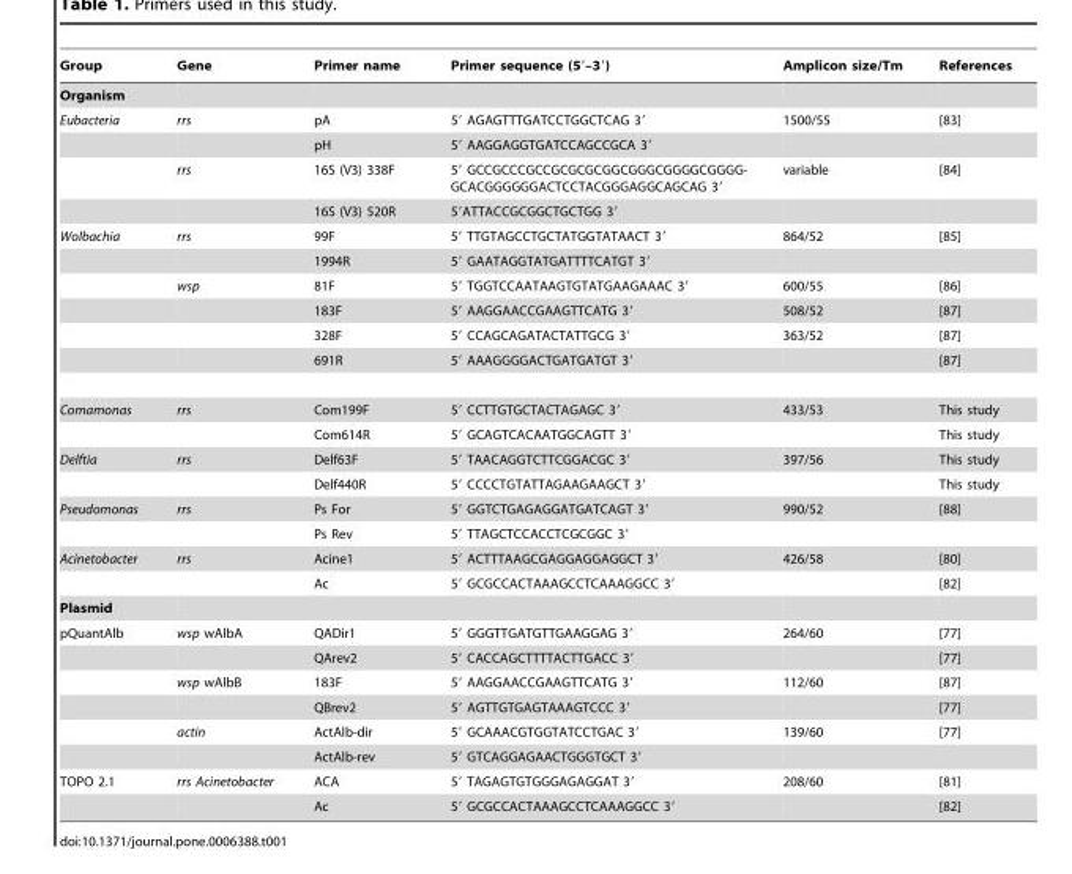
<table><thead><tr><td>Group</td><td>Gene</td><td>Primer name</td><td>Primer sequence (5′–3′)</td><td>Amplicon size/Tm</td><td>References</td></tr></thead><tbody><tr><td colspan="6">Organism</td></tr><tr><td rowspan="4">Eubacteria</td><td>rrs</td><td>pA</td><td>5′ AGAGTTTGATCCTGGCTCAG 3′</td><td>1500/55</td><td>[83]</td></tr><tr><td></td><td>pH</td><td>5′ AAGGAGGTGATCCAGCCGCA 3′</td><td></td><td></td></tr><tr><td>rrs</td><td>16S (V3) 338F</td><td>59 GCCGCCCGCCGCGCGCGGCGGGCGGGGCGGGG- GCACGGGGGGACTCCTACGGGAGGCAGCAG 39</td><td>variable</td><td>[84]</td></tr><tr><td></td><td>16S (V3) 520R</td><td>5′ATTACCGCGGCTGCTGG 3′</td><td></td><td></td></tr><tr><td rowspan="6">Wolbachia</td><td>rrs</td><td>99F</td><td>5′ TTGTAGCCTGCTATGGTATAACT 3′</td><td>864/52</td><td>[85]</td></tr><tr><td></td><td>1994R</td><td>5′ GAATAGGTATGATTTTCATGT 3′</td><td></td><td></td></tr><tr><td>wsp</td><td>81F</td><td>5′ TGGTCCAATAAGTGTATGAAGAAAC 3′</td><td>600/55</td><td>[86]</td></tr><tr><td></td><td>183F</td><td>5′ AAGGAACCGAAGTTCATG 3′</td><td>508/52</td><td>[87]</td></tr><tr><td></td><td>328F</td><td>5′ CCAGCAGATACTATTGCG 3′</td><td>363/52</td><td>[87]</td></tr><tr><td></td><td>691R</td><td>5′ AAAGGGGACTGATGATGT 3′</td><td></td><td>[87]</td></tr><tr><td rowspan="2">Comamonas</td><td>rrs</td><td>Com199F</td><td>5′ CCTTGTGCTACTAGAGC 3′</td><td>433/53</td><td>This study</td></tr><tr><td></td><td>Com614R</td><td>5′ GCAGTCACAATGGCAGTT 3′</td><td></td><td>This study</td></tr><tr><td rowspan="2">Delftia</td><td>rrs</td><td>Delf63F</td><td>5′ TAACAGGTCTTCGGACGC 3′</td><td>397/56</td><td>This study</td></tr><tr><td></td><td>Delf440R</td><td>5′ CCCCTGTATTAGAAGAAGCT 3′</td><td></td><td>This study</td></tr><tr><td rowspan="2">Pseudomonas</td><td>rrs</td><td>Ps For</td><td>5′ GGTCTGAGAGGATGATCAGT 3′</td><td>990/52</td><td>[88]</td></tr><tr><td></td><td>Ps Rev</td><td>5′ TTAGCTCCACCTCGCGGC 3′</td><td></td><td></td></tr><tr><td rowspan="2">Acinetobacter</td><td>rrs</td><td>Acine1</td><td>5′ ACTTTAAGCGAGGAGGAGGCT 3′</td><td>426/58</td><td>[80]</td></tr><tr><td></td><td>Ac</td><td>5′ GCGCCACTAAAGCCTCAAAGGCC 3′</td><td></td><td>[82]</td></tr><tr><td colspan="6">Plasmid</td></tr><tr><td rowspan="6">pQuantAlb</td><td>wsp wAlbA</td><td>QADir1</td><td>5′ GGGTTGATGTTGAAGGAG 3′</td><td>264/60</td><td>[77]</td></tr><tr><td></td><td>QArev2</td><td>5′ CACCAGCTTTTACTTGACC 3′</td><td></td><td>[77]</td></tr><tr><td>wsp wAlbB</td><td>183F</td><td>5′ AAGGAACCGAAGTTCATG 3′</td><td>112/60</td><td>[87]</td></tr><tr><td></td><td>QBrev2</td><td>5′ AGTTGTGAGTAAAGTCCC 3′</td><td></td><td>[77]</td></tr><tr><td>actin</td><td>ActAlb-dir</td><td>5′ GCAAACGTGGTATCCTGAC 3′</td><td>139/60</td><td>[77]</td></tr><tr><td></td><td>ActAlb-rev</td><td>5′ GTCAGGAGAACTGGGTGCT 3′</td><td></td><td></td></tr><tr><td rowspan="2">TOPO 2.1</td><td>rrs Acinetobacter</td><td>ACA</td><td>5′ TAGAGTGTGGGAGAGGAT 3′</td><td>208/60</td><td>[81]</td></tr><tr><td></td><td>Ac</td><td>5′ GCGCCACTAAAGCCTCAAAGGCC 3′</td><td></td><td>[82]</td></tr></tbody></table>